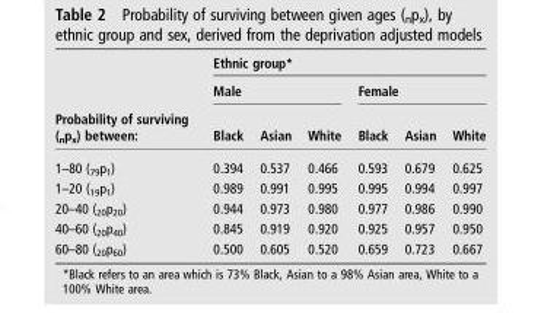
<table><thead><tr><td rowspan="3">Probability of surviving (<sub>n</sub>p<sub>x</sub>) between:</td><td colspan="6">Ethnic group*</td></tr><tr><td colspan="3">Male</td><td colspan="3">Female</td></tr><tr><td>Black</td><td>Asian</td><td>White</td><td>Black</td><td>Asian</td><td>White</td></tr></thead><tbody><tr><td>1–80 (<sub>79</sub>p<sub>1</sub>)</td><td>0.394</td><td>0.537</td><td>0.466</td><td>0.593</td><td>0.679</td><td>0.625</td></tr><tr><td>1–20 (<sub>19</sub>p<sub>1</sub>)</td><td>0.989</td><td>0.991</td><td>0.995</td><td>0.995</td><td>0.994</td><td>0.997</td></tr><tr><td>20–40 (<sub>20</sub>p<sub>20</sub>)</td><td>0.944</td><td>0.973</td><td>0.980</td><td>0.977</td><td>0.986</td><td>0.990</td></tr><tr><td>40–60 (<sub>20</sub>p<sub>40</sub>)</td><td>0.845</td><td>0.919</td><td>0.920</td><td>0.925</td><td>0.957</td><td>0.950</td></tr><tr><td>60–80 (<sub>20</sub>p<sub>60</sub>)</td><td>0.500</td><td>0.605</td><td>0.520</td><td>0.659</td><td>0.723</td><td>0.667</td></tr></tbody></table>